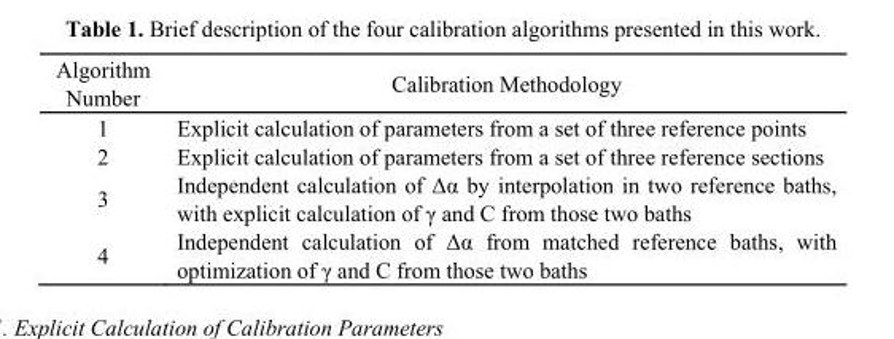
<table><thead><tr><td>Algorithm Number</td><td>Calibration Methodology</td></tr></thead><tbody><tr><td>1</td><td>Explicit calculation of parameters from a set of three reference points</td></tr><tr><td>2</td><td>Explicit calculation of parameters from a set of three reference sections</td></tr><tr><td>3</td><td>Independent calculation of Δα by interpolation in two reference baths, with explicit calculation of γ and C from those two baths</td></tr><tr><td>4</td><td>Independent calculation of Δα from matched reference baths, with optimization of γ and C from those two baths</td></tr></tbody></table>